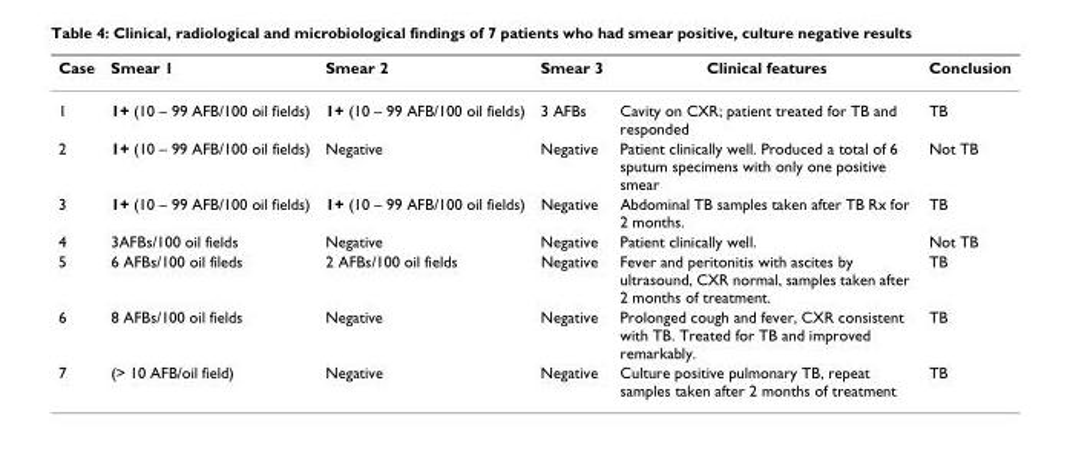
<table><thead><tr><td>Case</td><td>Smear 1</td><td>Smear 2</td><td>Smear 3</td><td>Clinical features</td><td>Conclusion</td></tr></thead><tbody><tr><td>1</td><td>1+ (10 – 99 AFB/100 oil fields)</td><td>1+ (10 – 99 AFB/100 oil fields)</td><td>3 AFBs</td><td>Cavity on CXR; patient treated for TB and responded</td><td>TB</td></tr><tr><td>2</td><td>1+ (10 – 99 AFB/100 oil fields)</td><td>Negative</td><td>Negative</td><td>Patient clinically well. Produced a total of 6 sputum specimens with only one positive smear</td><td>Not TB</td></tr><tr><td>3</td><td>1+ (10 – 99 AFB/100 oil fields)</td><td>1+ (10 – 99 AFB/100 oil fields)</td><td>Negative</td><td>Abdominal TB samples taken after TB Rx for 2 months.</td><td>TB</td></tr><tr><td>4</td><td>3AFBs/100 oil fields</td><td>Negative</td><td>Negative</td><td>Patient clinically well.</td><td>Not TB</td></tr><tr><td>5</td><td>6 AFBs/100 oil fileds</td><td>2 AFBs/100 oil fields</td><td>Negative</td><td>Fever and peritonitis with ascites by ultrasound, CXR normal, samples taken after 2 months of treatment.</td><td>TB</td></tr><tr><td>6</td><td>8 AFBs/100 oil fields</td><td>Negative</td><td>Negative</td><td>Prolonged cough and fever, CXR consistent with TB. Treated for TB and improved remarkably.</td><td>TB</td></tr><tr><td>7</td><td>(&gt; 10 AFB/oil field)</td><td>Negative</td><td>Negative</td><td>Culture positive pulmonary TB, repeat samples taken after 2 months of treatment</td><td>TB</td></tr></tbody></table>